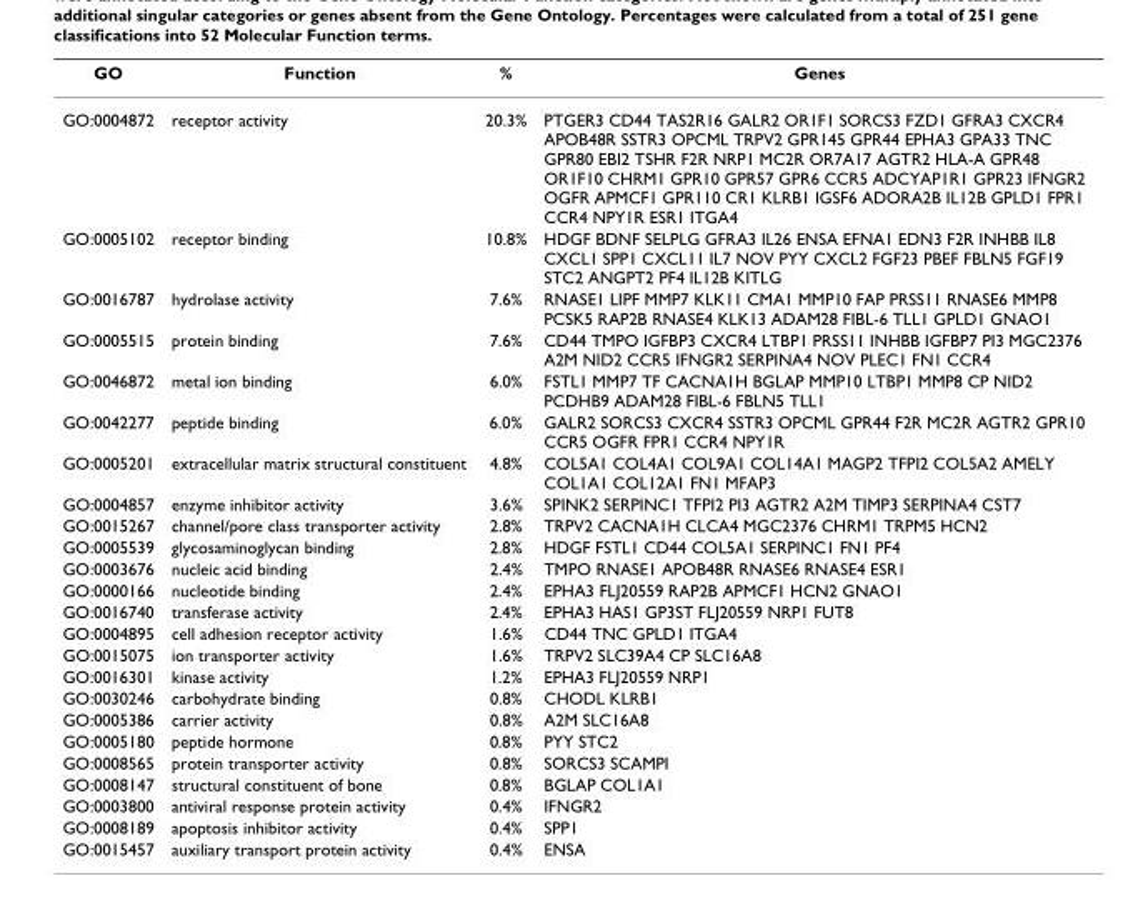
<table><thead><tr><td>GO</td><td>Function</td><td>%</td><td>Genes</td></tr></thead><tbody><tr><td>GO:0004872</td><td>receptor activity</td><td>20.3%</td><td>PTGER3 CD44 TAS2R16 GALR2 OR1F1 SORCS3 FZD1 GFRA3 CXCR4 APOB48R SSTR3 OPCML TRPV2 GPR145 GPR44 EPHA3 GPA33 TNC GPR80 EBI2 TSHR F2R NRP1 MC2R OR7A17 AGTR2 HLA-A GPR48 OR1F10 CHRM1 GPR10 GPR57 GPR6 CCR5 ADCYAP1R1 GPR23 IFNGR2 OGFR APMCF1 GPR110 CR1 KLRB1 IGSF6 ADORA2B IL12B GPLD1 FPR1 CCR4 NPY1R ESR1 ITGA4</td></tr><tr><td>GO:0005102</td><td>receptor binding</td><td>10.8%</td><td>HDGF BDNF SELPLG GFRA3 IL26 ENSA EFNA1 EDN3 F2R INHBB IL8 CXCL1 SPP1 CXCL11 IL7 NOV PYY CXCL2 FGF23 PBEF FBLN5 FGF19 STC2 ANGPT2 PF4 IL12B KITLG</td></tr><tr><td>GO:0016787</td><td>hydrolase activity</td><td>7.6%</td><td>RNASE1 LIPF MMP7 KLK11 CMA1 MMP10 FAP PRSS11 RNASE6 MMP8 PCSK5 RAP2B RNASE4 KLK13 ADAM28 FIBL-6 TLL1 GPLD1 GNAO1</td></tr><tr><td>GO:0005515</td><td>protein binding</td><td>7.6%</td><td>CD44 TMPO IGFBP3 CXCR4 LTBP1 PRSS11 INHBB IGFBP7 PI3 MGC2376 A2M NID2 CCR5 IFNGR2 SERPINA4 NOV PLEC1 FN1 CCR4</td></tr><tr><td>GO:0046872</td><td>metal ion binding</td><td>6.0%</td><td>FSTL1 MMP7 TF CACNA1H BGLAP MMP10 LTBP1 MMP8 CP NID2 PCDHB9 ADAM28 FIBL-6 FBLN5 TLL1</td></tr><tr><td>GO:0042277</td><td>peptide binding</td><td>6.0%</td><td>GALR2 SORCS3 CXCR4 SSTR3 OPCML GPR44 F2R MC2R AGTR2 GPR10 CCR5 OGFR FPR1 CCR4 NPY1R</td></tr><tr><td>GO:0005201</td><td>extracellular matrix structural constituent</td><td>4.8%</td><td>COL5A1 COL4A1 COL9A1 COL14A1 MAGP2 TFPI2 COL5A2 AMELY COL1A1 COL12A1 FN1 MFAP3</td></tr><tr><td>GO:0004857</td><td>enzyme inhibitor activity</td><td>3.6%</td><td>SPINK2 SERPINC1 TFPI2 PI3 AGTR2 A2M TIMP3 SERPINA4 CST7</td></tr><tr><td>GO:0015267</td><td>channel/pore class transporter activity</td><td>2.8%</td><td>TRPV2 CACNA1H CLCA4 MGC2376 CHRM1 TRPM5 HCN2</td></tr><tr><td>GO:0005539</td><td>glycosaminoglycan binding</td><td>2.8%</td><td>HDGF FSTL1 CD44 COL5A1 SERPINC1 FN1 PF4</td></tr><tr><td>GO:0003676</td><td>nucleic acid binding</td><td>2.4%</td><td>TMPO RNASE1 APOB48R RNASE6 RNASE4 ESR1</td></tr><tr><td>GO:0000166</td><td>nucleotide binding</td><td>2.4%</td><td>EPHA3 FLJ20559 RAP2B APMCF1 HCN2 GNAO1</td></tr><tr><td>GO:0016740</td><td>transferase activity</td><td>2.4%</td><td>EPHA3 HAS1 GP3ST FLJ20559 NRP1 FUT8</td></tr><tr><td>GO:0004895</td><td>cell adhesion receptor activity</td><td>1.6%</td><td>CD44 TNC GPLD1 ITGA4</td></tr><tr><td>GO:0015075</td><td>ion transporter activity</td><td>1.6%</td><td>TRPV2 SLC39A4 CP SLC16A8</td></tr><tr><td>GO:0016301</td><td>kinase activity</td><td>1.2%</td><td>EPHA3 FLJ20559 NRP1</td></tr><tr><td>GO:0030246</td><td>carbohydrate binding</td><td>0.8%</td><td>CHODL KLRB1</td></tr><tr><td>GO:0005386</td><td>carrier activity</td><td>0.8%</td><td>A2M SLC16A8</td></tr><tr><td>GO:0005180</td><td>peptide hormone</td><td>0.8%</td><td>PYY STC2</td></tr><tr><td>GO:0008565</td><td>protein transporter activity</td><td>0.8%</td><td>SORCS3 SCAMPI</td></tr><tr><td>GO:0008147</td><td>structural constituent of bone</td><td>0.8%</td><td>BGLAP COL1A1</td></tr><tr><td>GO:0003800</td><td>antiviral response protein activity</td><td>0.4%</td><td>IFNGR2</td></tr><tr><td>GO:0008189</td><td>apoptosis inhibitor activity</td><td>0.4%</td><td>SPP1</td></tr><tr><td>GO:0015457</td><td>auxiliary transport protein activity</td><td>0.4%</td><td>ENSA</td></tr></tbody></table>